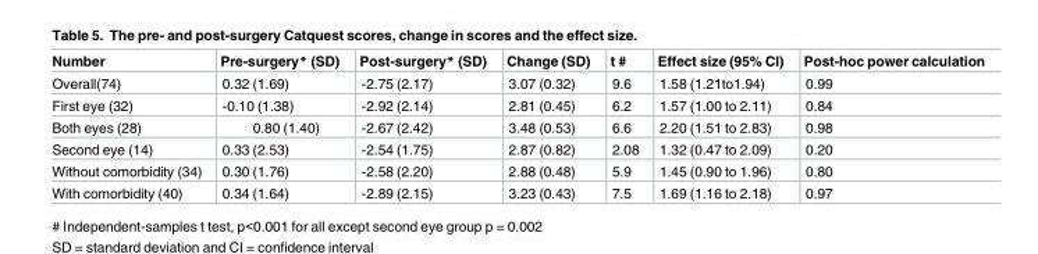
<table><thead><tr><td>Number</td><td>Pre-surgery* (SD)</td><td>Post-surgery* (SD)</td><td>Change (SD)</td><td>t #</td><td>Effect size (95% CI)</td><td>Post-hoc power calculation</td></tr></thead><tbody><tr><td>Overall(74)</td><td>0.32 (1.69)</td><td>-2.75 (2.17)</td><td>3.07 (0.32)</td><td>9.6</td><td>1.58 (1.21to1.94)</td><td>0.99</td></tr><tr><td>First eye (32)</td><td>-0.10 (1.38)</td><td>-2.92 (2.14)</td><td>2.81 (0.45)</td><td>6.2</td><td>1.57 (1.00 to 2.11)</td><td>0.84</td></tr><tr><td>Both eyes (28)</td><td>0.80 (1.40)</td><td>-2.67 (2.42)</td><td>3.48 (0.53)</td><td>6.6</td><td>2.20 (1.51 to 2.83)</td><td>0.98</td></tr><tr><td>Second eye (14)</td><td>0.33 (2.53)</td><td>-2.54 (1.75)</td><td>2.87 (0.82)</td><td>2.08</td><td>1.32 (0.47 to 2.09)</td><td>0.20</td></tr><tr><td>Without comorbidity (34)</td><td>0.30 (1.76)</td><td>-2.58 (2.20)</td><td>2.88 (0.48)</td><td>5.9</td><td>1.45 (0.90 to 1.96)</td><td>0.80</td></tr><tr><td>With comorbidity (40)</td><td>0.34 (1.64)</td><td>-2.89 (2.15)</td><td>3.23 (0.43)</td><td>7.5</td><td>1.69 (1.16 to 2.18)</td><td>0.97</td></tr></tbody></table>